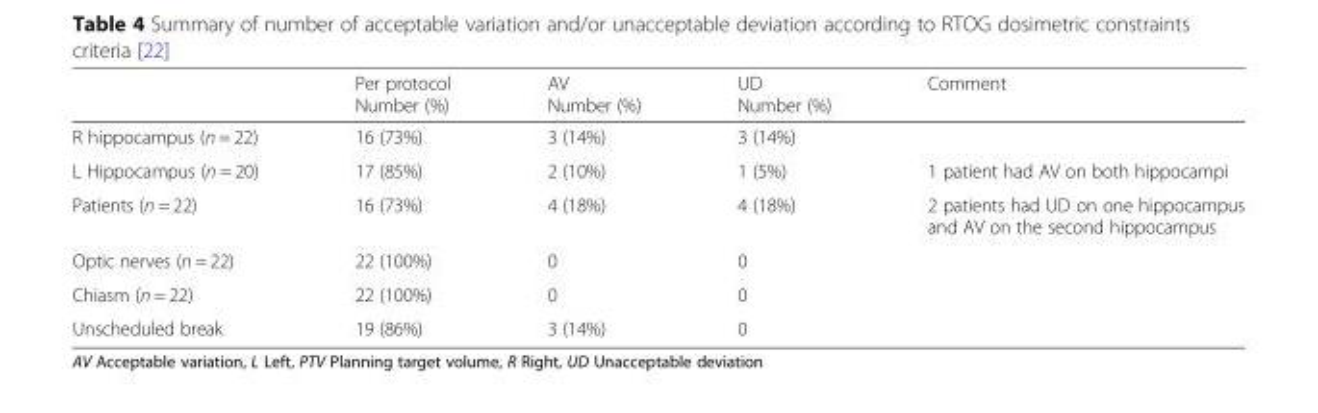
<table><thead><tr><td></td><td>Per protocol Number (%)</td><td>AV Number (%)</td><td>UD Number (%)</td><td>Comment</td></tr></thead><tbody><tr><td>R hippocampus (n = 22)</td><td>16 (73%)</td><td>3 (14%)</td><td>3 (14%)</td><td></td></tr><tr><td>L Hippocampus (n = 20)</td><td>17 (85%)</td><td>2 (10%)</td><td>1 (5%)</td><td>1 patient had AV on both hippocampi</td></tr><tr><td>Patients (n = 22)</td><td>16 (73%)</td><td>4 (18%)</td><td>4 (18%)</td><td>2 patients had UD on one hippocampus and AV on the second hippocampus</td></tr><tr><td>Optic nerves (n = 22)</td><td>22 (100%)</td><td>0</td><td>0</td><td rowspan="3"></td></tr><tr><td>Chiasm (n = 22)</td><td>22 (100%)</td><td>0</td><td>0</td></tr><tr><td>Unscheduled break</td><td>19 (86%)</td><td>3 (14%)</td><td>0</td></tr></tbody></table>